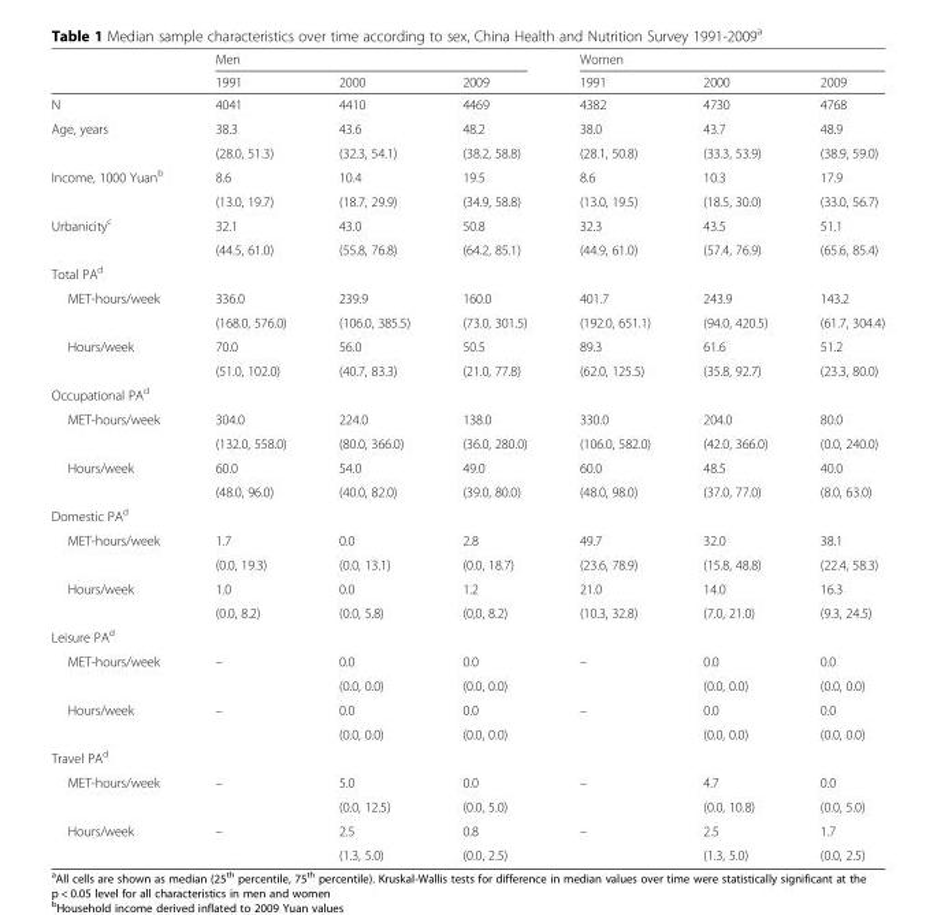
<table><thead><tr><td rowspan="2"></td><td colspan="3">Men</td><td colspan="3">Women</td></tr><tr><td>1991</td><td>2000</td><td>2009</td><td>1991</td><td>2000</td><td>2009</td></tr></thead><tbody><tr><td>N</td><td>4041</td><td>4410</td><td>4469</td><td>4382</td><td>4730</td><td>4768</td></tr><tr><td rowspan="2">Age, years</td><td>38.3</td><td>43.6</td><td>48.2</td><td>38.0</td><td>43.7</td><td>48.9</td></tr><tr><td>(28.0, 51.3)</td><td>(32.3, 54.1)</td><td>(38.2, 58.8)</td><td>(28.1, 50.8)</td><td>(33.3, 53.9)</td><td>(38.9, 59.0)</td></tr><tr><td rowspan="2">Income, 1000 Yuan<sup>b</sup></td><td>8.6</td><td>10.4</td><td>19.5</td><td>8.6</td><td>10.3</td><td>17.9</td></tr><tr><td>(13.0, 19.7)</td><td>(18.7, 29.9)</td><td>(34.9, 58.8)</td><td>(13.0, 19.5)</td><td>(18.5, 30.0)</td><td>(33.0, 56.7)</td></tr><tr><td rowspan="2">Urbanicity<sup>c</sup></td><td>32.1</td><td>43.0</td><td>50.8</td><td>32.3</td><td>43.5</td><td>51.1</td></tr><tr><td>(44.5, 61.0)</td><td>(55.8, 76.8)</td><td>(64.2, 85.1)</td><td>(44.9, 61.0)</td><td>(57.4, 76.9)</td><td>(65.6, 85.4)</td></tr><tr><td colspan="7">Total PA<sup>d</sup></td></tr><tr><td rowspan="2">MET-hours/week</td><td>336.0</td><td>239.9</td><td>160.0</td><td>401.7</td><td>243.9</td><td>143.2</td></tr><tr><td>(168.0, 576.0)</td><td>(106.0, 385.5)</td><td>(73.0, 301.5)</td><td>(192.0, 651.1)</td><td>(94.0, 420.5)</td><td>(61.7, 304.4)</td></tr><tr><td rowspan="2">Hours/week</td><td>70.0</td><td>56.0</td><td>50.5</td><td>89.3</td><td>61.6</td><td>51.2</td></tr><tr><td>(51.0, 102.0)</td><td>(40.7, 83.3)</td><td>(21.0, 77.8)</td><td>(62.0, 125.5)</td><td>(35.8, 92.7)</td><td>(23.3, 80.0)</td></tr><tr><td colspan="7">Occupational PA<sup>d</sup></td></tr><tr><td rowspan="2">MET-hours/week</td><td>304.0</td><td>224.0</td><td>138.0</td><td>330.0</td><td>204.0</td><td>80.0</td></tr><tr><td>(132.0, 558.0)</td><td>(80.0, 366.0)</td><td>(36.0, 280.0)</td><td>(106.0, 582.0)</td><td>(42.0, 366.0)</td><td>(0.0, 240.0)</td></tr><tr><td rowspan="2">Hours/week</td><td>60.0</td><td>54.0</td><td>49.0</td><td>60.0</td><td>48.5</td><td>40.0</td></tr><tr><td>(48.0, 96.0)</td><td>(40.0, 82.0)</td><td>(39.0, 80.0)</td><td>(48.0, 98.0)</td><td>(37.0, 77.0)</td><td>(8.0, 63.0)</td></tr><tr><td colspan="7">Domestic PA<sup>d</sup></td></tr><tr><td rowspan="2">MET-hours/week</td><td>1.7</td><td>0.0</td><td>2.8</td><td>49.7</td><td>32.0</td><td>38.1</td></tr><tr><td>(0.0, 19.3)</td><td>(0.0, 13.1)</td><td>(0.0, 18.7)</td><td>(23.6, 78.9)</td><td>(15.8, 48.8)</td><td>(22.4, 58.3)</td></tr><tr><td rowspan="2">Hours/week</td><td>1.0</td><td>0.0</td><td>1.2</td><td>21.0</td><td>14.0</td><td>16.3</td></tr><tr><td>(0.0, 8.2)</td><td>(0.0, 5.8)</td><td>(0,0, 8.2)</td><td>(10.3, 32.8)</td><td>(7.0, 21.0)</td><td>(9.3, 24.5)</td></tr><tr><td colspan="7">Leisure PA<sup>d</sup></td></tr><tr><td rowspan="2">MET-hours/week</td><td rowspan="2">–</td><td>0.0</td><td>0.0</td><td>–</td><td>0.0</td><td>0.0</td></tr><tr><td>(0.0, 0.0)</td><td>(0.0, 0.0)</td><td></td><td>(0.0, 0.0)</td><td>(0.0, 0.0)</td></tr><tr><td rowspan="2">Hours/week</td><td rowspan="2">–</td><td>0.0</td><td>0.0</td><td>–</td><td>0.0</td><td>0.0</td></tr><tr><td>(0.0, 0.0)</td><td>(0.0, 0.0)</td><td></td><td>(0.0, 0.0)</td><td>(0.0, 0.0)</td></tr><tr><td colspan="7">Travel PA<sup>d</sup></td></tr><tr><td rowspan="2">MET-hours/week</td><td rowspan="2">–</td><td>5.0</td><td>0.0</td><td>–</td><td>4.7</td><td>0.0</td></tr><tr><td>(0.0, 12.5)</td><td>(0.0, 5.0)</td><td></td><td>(0.0, 10.8)</td><td>(0.0, 5.0)</td></tr><tr><td rowspan="2">Hours/week</td><td rowspan="2">–</td><td>2.5</td><td>0.8</td><td rowspan="2">–</td><td>2.5</td><td>1.7</td></tr><tr><td>(1.3, 5.0)</td><td>(0.0, 2.5)</td><td>(1.3, 5.0)</td><td>(0.0, 2.5)</td></tr></tbody></table>